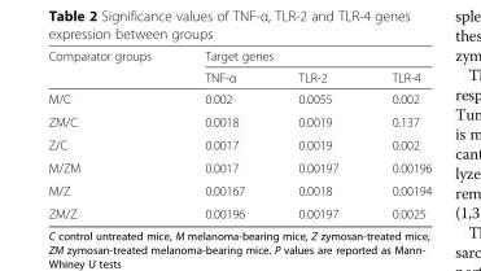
<table><thead><tr><td rowspan="2">Comparator groups</td><td colspan="3">Target genes</td></tr><tr><td>TNF-α</td><td>TLR-2</td><td>TLR-4</td></tr></thead><tbody><tr><td>M/C</td><td>0.002</td><td>0.0055</td><td>0.002</td></tr><tr><td>ZM/C</td><td>0.0018</td><td>0.0019</td><td>0.137</td></tr><tr><td>Z/C</td><td>0.0017</td><td>0.0019</td><td>0.002</td></tr><tr><td>M/ZM</td><td>0.0017</td><td>0.00197</td><td>0.00196</td></tr><tr><td>M/Z</td><td>0.00167</td><td>0.0018</td><td>0.00194</td></tr><tr><td>ZM/Z</td><td>0.00196</td><td>0.00197</td><td>0.0025</td></tr></tbody></table>